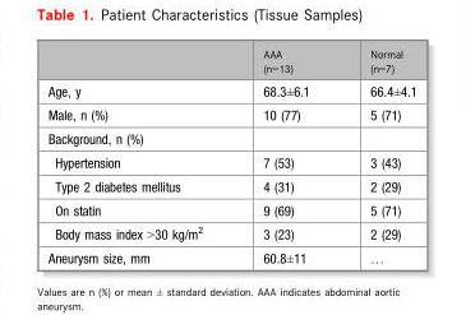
<table><thead><tr><td></td><td>AAA (n=13)</td><td>Normal (n=7)</td></tr></thead><tbody><tr><td>Age, y</td><td>68.3±6.1</td><td>66.4±4.1</td></tr><tr><td>Male, n (%)</td><td>10 (77)</td><td>5 (71)</td></tr><tr><td colspan="3">Background, n (%)</td></tr><tr><td>Hypertension</td><td>7 (53)</td><td>3 (43)</td></tr><tr><td>Type 2 diabetes mellitus</td><td>4 (31)</td><td>2 (29)</td></tr><tr><td>On statin</td><td>9 (69)</td><td>5 (71)</td></tr><tr><td>Body mass index &gt;30 kg/m<sup>2</sup></td><td>3 (23)</td><td>2 (29)</td></tr><tr><td>Aneurysm size, mm</td><td>60.8±11</td><td>…</td></tr></tbody></table>